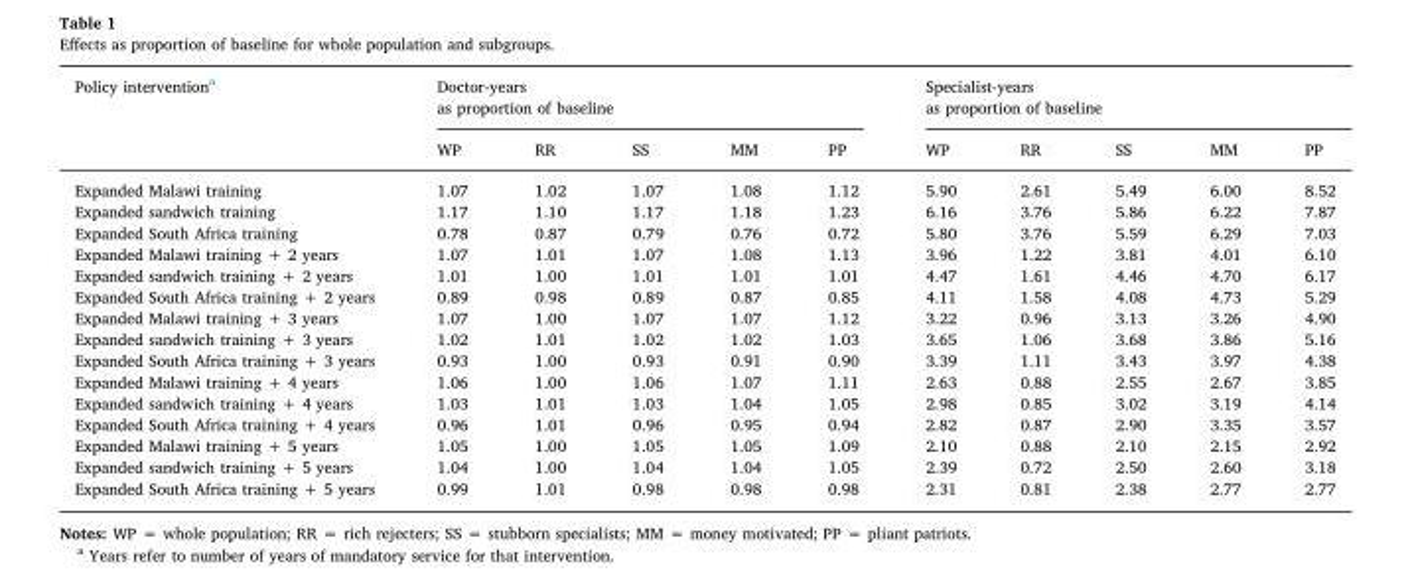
<table><thead><tr><td rowspan="2">Policy intervention<sup>a</sup></td><td colspan="5">Doctor-years as proportion of baseline</td><td colspan="5">Specialist-years as proportion of baseline</td></tr><tr><td>WP</td><td>RR</td><td>SS</td><td>MM</td><td>PP</td><td>WP</td><td>RR</td><td>SS</td><td>MM</td><td>PP</td></tr></thead><tbody><tr><td>Expanded Malawi training</td><td>1.07</td><td>1.02</td><td>1.07</td><td>1.08</td><td>1.12</td><td>5.90</td><td>2.61</td><td>5.49</td><td>6.00</td><td>8.52</td></tr><tr><td>Expanded sandwich training</td><td>1.17</td><td>1.10</td><td>1.17</td><td>1.18</td><td>1.23</td><td>6.16</td><td>3.76</td><td>5.86</td><td>6.22</td><td>7.87</td></tr><tr><td>Expanded South Africa training</td><td>0.78</td><td>0.87</td><td>0.79</td><td>0.76</td><td>0.72</td><td>5.80</td><td>3.76</td><td>5.59</td><td>6.29</td><td>7.03</td></tr><tr><td>Expanded Malawi training + 2 years</td><td>1.07</td><td>1.01</td><td>1.07</td><td>1.08</td><td>1.13</td><td>3.96</td><td>1.22</td><td>3.81</td><td>4.01</td><td>6.10</td></tr><tr><td>Expanded sandwich training + 2 years</td><td>1.01</td><td>1.00</td><td>1.01</td><td>1.01</td><td>1.01</td><td>4.47</td><td>1.61</td><td>4.46</td><td>4.70</td><td>6.17</td></tr><tr><td>Expanded South Africa training + 2 years</td><td>0.89</td><td>0.98</td><td>0.89</td><td>0.87</td><td>0.85</td><td>4.11</td><td>1.58</td><td>4.08</td><td>4.73</td><td>5.29</td></tr><tr><td>Expanded Malawi training + 3 years</td><td>1.07</td><td>1.00</td><td>1.07</td><td>1.07</td><td>1.12</td><td>3.22</td><td>0.96</td><td>3.13</td><td>3.26</td><td>4.90</td></tr><tr><td>Expanded sandwich training + 3 years</td><td>1.02</td><td>1.01</td><td>1.02</td><td>1.02</td><td>1.03</td><td>3.65</td><td>1.06</td><td>3.68</td><td>3.86</td><td>5.16</td></tr><tr><td>Expanded South Africa training + 3 years</td><td>0.93</td><td>1.00</td><td>0.93</td><td>0.91</td><td>0.90</td><td>3.39</td><td>1.11</td><td>3.43</td><td>3.97</td><td>4.38</td></tr><tr><td>Expanded Malawi training + 4 years</td><td>1.06</td><td>1.00</td><td>1.06</td><td>1.07</td><td>1.11</td><td>2.63</td><td>0.88</td><td>2.55</td><td>2.67</td><td>3.85</td></tr><tr><td>Expanded sandwich training + 4 years</td><td>1.03</td><td>1.01</td><td>1.03</td><td>1.04</td><td>1.05</td><td>2.98</td><td>0.85</td><td>3.02</td><td>3.19</td><td>4.14</td></tr><tr><td>Expanded South Africa training + 4 years</td><td>0.96</td><td>1.01</td><td>0.96</td><td>0.95</td><td>0.94</td><td>2.82</td><td>0.87</td><td>2.90</td><td>3.35</td><td>3.57</td></tr><tr><td>Expanded Malawi training + 5 years</td><td>1.05</td><td>1.00</td><td>1.05</td><td>1.05</td><td>1.09</td><td>2.10</td><td>0.88</td><td>2.10</td><td>2.15</td><td>2.92</td></tr><tr><td>Expanded sandwich training + 5 years</td><td>1.04</td><td>1.00</td><td>1.04</td><td>1.04</td><td>1.05</td><td>2.39</td><td>0.72</td><td>2.50</td><td>2.60</td><td>3.18</td></tr><tr><td>Expanded South Africa training + 5 years</td><td>0.99</td><td>1.01</td><td>0.98</td><td>0.98</td><td>0.98</td><td>2.31</td><td>0.81</td><td>2.38</td><td>2.77</td><td>2.77</td></tr></tbody></table>